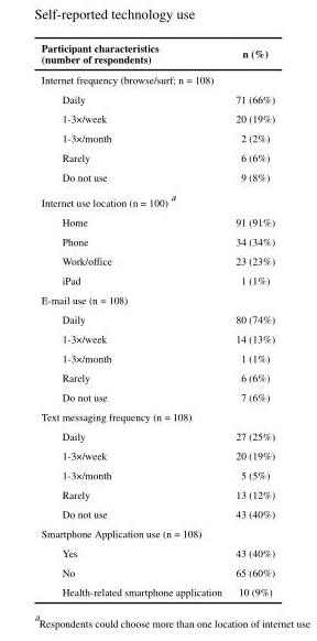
<table><thead><tr><td>Participant characteristics (number of respondents)</td><td>n (%)</td></tr></thead><tbody><tr><td colspan="2">Internet frequency (browse/surf; n = 108)</td></tr><tr><td>Daily</td><td>71 (66%)</td></tr><tr><td>1-3×/week</td><td>20 (19%)</td></tr><tr><td>1-3×/month</td><td>2 (2%)</td></tr><tr><td>Rarely</td><td>6 (6%)</td></tr><tr><td>Do not use</td><td>9 (8%)</td></tr><tr><td colspan="2">Internet use location (n = 100) <sup>a</sup></td></tr><tr><td>Home</td><td>91 (91%)</td></tr><tr><td>Phone</td><td>34 (34%)</td></tr><tr><td>Work/office</td><td>23 (23%)</td></tr><tr><td>iPad</td><td>1 (1%)</td></tr><tr><td colspan="2">E-mail use (n = 108)</td></tr><tr><td>Daily</td><td>80 (74%)</td></tr><tr><td>1-3×/week</td><td>14 (13%)</td></tr><tr><td>1-3×/month</td><td>1 (1%)</td></tr><tr><td>Rarely</td><td>6 (6%)</td></tr><tr><td>Do not use</td><td>7 (6%)</td></tr><tr><td colspan="2">Text messaging frequency (n = 108)</td></tr><tr><td>Daily</td><td>27 (25%)</td></tr><tr><td>1-3×/week</td><td>20 (19%)</td></tr><tr><td>1-3×/month</td><td>5 (5%)</td></tr><tr><td>Rarely</td><td>13 (12%)</td></tr><tr><td>Do not use</td><td>43 (40%)</td></tr><tr><td colspan="2">Smartphone Application use (n = 108)</td></tr><tr><td>Yes</td><td>43 (40%)</td></tr><tr><td>No</td><td>65 (60%)</td></tr><tr><td>Health-related smartphone application</td><td>10 (9%)</td></tr></tbody></table>